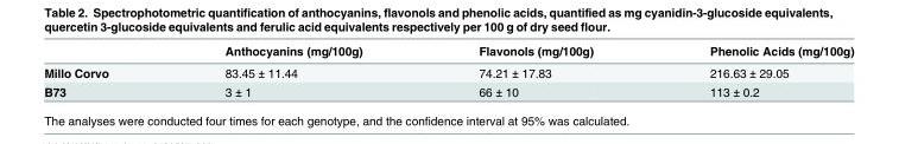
<table><thead><tr><td></td><td>Anthocyanins (mg/100g)</td><td>Flavonols (mg/100g)</td><td>Phenolic Acids (mg/100g)</td></tr></thead><tbody><tr><td>Millo Corvo</td><td>83.45 ± 11.44</td><td>74.21 ± 17.83</td><td>216.63 ± 29.05</td></tr><tr><td>B73</td><td>3 ± 1</td><td>66 ± 10</td><td>113 ± 0.2</td></tr></tbody></table>